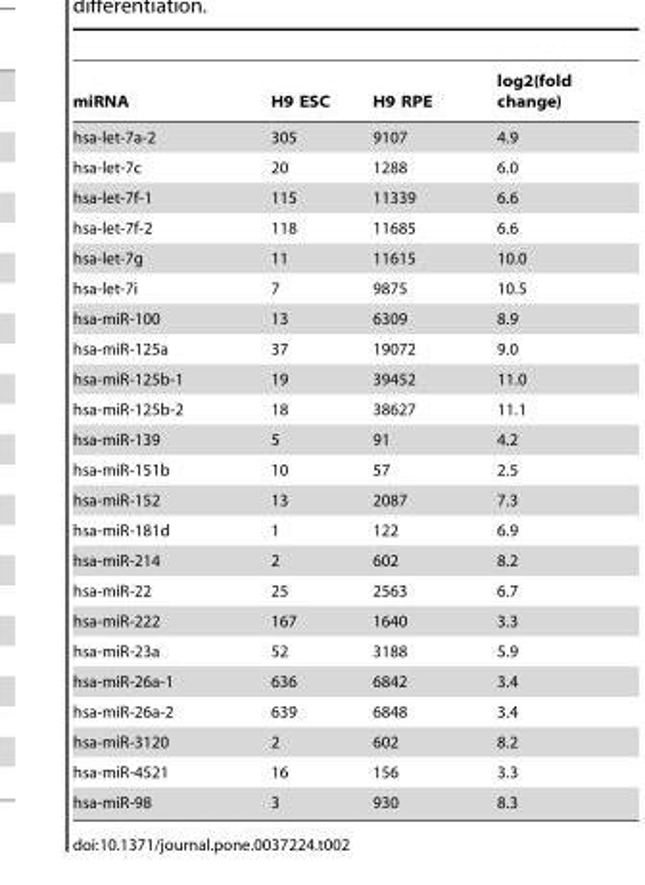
<table><thead><tr><td>miRNA</td><td>H9 ESC</td><td>H9 RPE</td><td>log2(fold change)</td></tr></thead><tbody><tr><td>hsa-let-7a-2</td><td>305</td><td>9107</td><td>4.9</td></tr><tr><td>hsa-let-7c</td><td>20</td><td>1288</td><td>6.0</td></tr><tr><td>hsa-let-7f-1</td><td>115</td><td>11339</td><td>6.6</td></tr><tr><td>hsa-let-7f-2</td><td>118</td><td>11685</td><td>6.6</td></tr><tr><td>hsa-let-7g</td><td>11</td><td>11615</td><td>10.0</td></tr><tr><td>hsa-let-7i</td><td>7</td><td>9875</td><td>10.5</td></tr><tr><td>hsa-miR-100</td><td>13</td><td>6309</td><td>8.9</td></tr><tr><td>hsa-miR-125a</td><td>37</td><td>19072</td><td>9.0</td></tr><tr><td>hsa-miR-125b-1</td><td>19</td><td>39452</td><td>11.0</td></tr><tr><td>hsa-miR-125b-2</td><td>18</td><td>38627</td><td>11.1</td></tr><tr><td>hsa-miR-139</td><td>5</td><td>91</td><td>4.2</td></tr><tr><td>hsa-miR-151b</td><td>10</td><td>57</td><td>2.5</td></tr><tr><td>hsa-miR-152</td><td>13</td><td>2087</td><td>7.3</td></tr><tr><td>hsa-miR-181d</td><td>1</td><td>122</td><td>6.9</td></tr><tr><td>hsa-miR-214</td><td>2</td><td>602</td><td>8.2</td></tr><tr><td>hsa-miR-22</td><td>25</td><td>2563</td><td>6.7</td></tr><tr><td>hsa-miR-222</td><td>167</td><td>1640</td><td>3.3</td></tr><tr><td>hsa-miR-23a</td><td>52</td><td>3188</td><td>5.9</td></tr><tr><td>hsa-miR-26a-1</td><td>636</td><td>6842</td><td>3.4</td></tr><tr><td>hsa-miR-26a-2</td><td>639</td><td>6848</td><td>3.4</td></tr><tr><td>hsa-miR-3120</td><td>2</td><td>602</td><td>8.2</td></tr><tr><td>hsa-miR-4521</td><td>16</td><td>156</td><td>3.3</td></tr><tr><td>hsa-miR-98</td><td>3</td><td>930</td><td>8.3</td></tr></tbody></table>